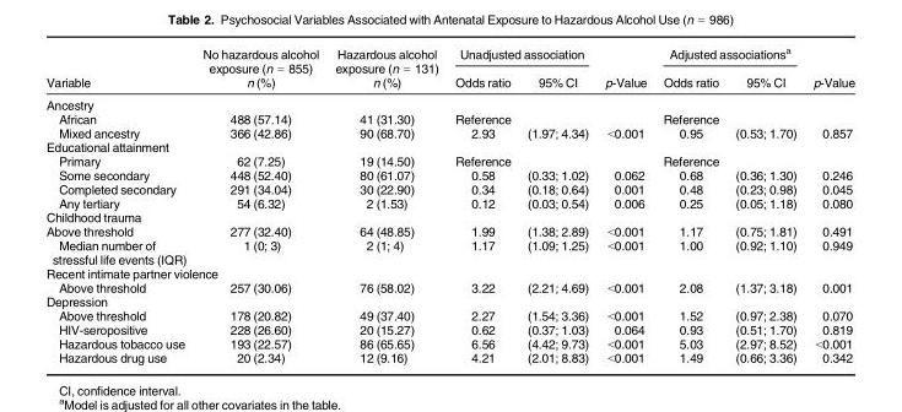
<table><thead><tr><td rowspan="2">Variable</td><td rowspan="2">No hazardous alcohol exposure (n = 855) n (%)</td><td rowspan="2">Hazardous alcohol exposure (n = 131) n (%)</td><td colspan="2">Unadjusted association</td><td rowspan="2">p-Value</td><td colspan="2">Adjusted associations<sup>a</sup></td><td rowspan="2">p-Value</td></tr><tr><td>Odds ratio</td><td>95% CI</td><td>Odds ratio</td><td>95% CI</td></tr></thead><tbody><tr><td colspan="9">Ancestry</td></tr><tr><td>African</td><td>488 (57.14)</td><td>41 (31.30)</td><td>Reference</td><td></td><td></td><td>Reference</td><td></td><td></td></tr><tr><td>Mixed ancestry</td><td>366 (42.86)</td><td>90 (68.70)</td><td>2.93</td><td>(1.97; 4.34)</td><td>&lt;0.001</td><td>0.95</td><td>(0.53; 1.70)</td><td>0.857</td></tr><tr><td colspan="9">Educational attainment</td></tr><tr><td>Primary</td><td>62 (7.25)</td><td>19 (14.50)</td><td>Reference</td><td></td><td></td><td>Reference</td><td></td><td></td></tr><tr><td>Some secondary</td><td>448 (52.40)</td><td>80 (61.07)</td><td>0.58</td><td>(0.33; 1.02)</td><td>0.062</td><td>0.68</td><td>(0.36; 1.30)</td><td>0.246</td></tr><tr><td>Completed secondary</td><td>291 (34.04)</td><td>30 (22.90)</td><td>0.34</td><td>(0.18; 0.64)</td><td>0.001</td><td>0.48</td><td>(0.23; 0.98)</td><td>0.045</td></tr><tr><td>Any tertiary</td><td>54 (6.32)</td><td>2 (1.53)</td><td>0.12</td><td>(0.03; 0.54)</td><td>0.006</td><td>0.25</td><td>(0.05; 1.18)</td><td>0.080</td></tr><tr><td colspan="9">Childhood trauma</td></tr><tr><td>Above threshold</td><td>277 (32.40)</td><td>64 (48.85)</td><td>1.99</td><td>(1.38; 2.89)</td><td>&lt;0.001</td><td>1.17</td><td>(0.75; 1.81)</td><td>0.491</td></tr><tr><td>Median number of stressful life events (IQR)</td><td>1 (0; 3)</td><td>2 (1; 4)</td><td>1.17</td><td>(1.09; 1.25)</td><td>&lt;0.001</td><td>1.00</td><td>(0.92; 1.10)</td><td>0.949</td></tr><tr><td colspan="9">Recent intimate partner violence</td></tr><tr><td>Above threshold</td><td>257 (30.06)</td><td>76 (58.02)</td><td>3.22</td><td>(2.21; 4.69)</td><td>&lt;0.001</td><td>2.08</td><td>(1.37; 3.18)</td><td>0.001</td></tr><tr><td colspan="9">Depression</td></tr><tr><td>Above threshold</td><td>178 (20.82)</td><td>49 (37.40)</td><td>2.27</td><td>(1.54; 3.36)</td><td>&lt;0.001</td><td>1.52</td><td>(0.97; 2.38)</td><td>0.070</td></tr><tr><td>HIV-seropositive</td><td>228 (26.60)</td><td>20 (15.27)</td><td>0.62</td><td>(0.37; 1.03)</td><td>0.064</td><td>0.93</td><td>(0.51; 1.70)</td><td>0.819</td></tr><tr><td>Hazardous tobacco use</td><td>193 (22.57)</td><td>86 (65.65)</td><td>6.56</td><td>(4.42; 9.73)</td><td>&lt;0.001</td><td>5.03</td><td>(2.97; 8.52)</td><td>&lt;0.001</td></tr><tr><td>Hazardous drug use</td><td>20 (2.34)</td><td>12 (9.16)</td><td>4.21</td><td>(2.01; 8.83)</td><td>&lt;0.001</td><td>1.49</td><td>(0.66; 3.36)</td><td>0.342</td></tr></tbody></table>